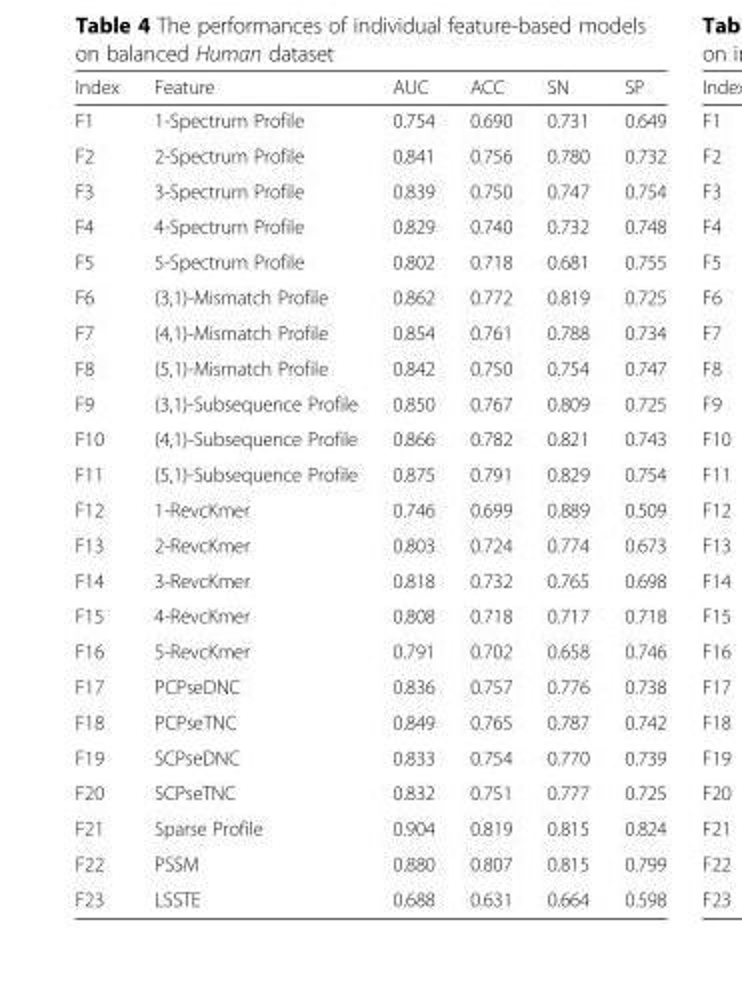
<table><thead><tr><td>Index</td><td>Feature</td><td>AUC</td><td>ACC</td><td>SN</td><td>SP</td></tr></thead><tbody><tr><td>F1</td><td>1-Spectrum Profile</td><td>0.754</td><td>0.690</td><td>0.731</td><td>0.649</td></tr><tr><td>F2</td><td>2-Spectrum Profile</td><td>0.841</td><td>0.756</td><td>0.780</td><td>0.732</td></tr><tr><td>F3</td><td>3-Spectrum Profile</td><td>0.839</td><td>0.750</td><td>0.747</td><td>0.754</td></tr><tr><td>F4</td><td>4-Spectrum Profile</td><td>0.829</td><td>0.740</td><td>0.732</td><td>0.748</td></tr><tr><td>F5</td><td>5-Spectrum Profile</td><td>0.802</td><td>0.718</td><td>0.681</td><td>0.755</td></tr><tr><td>F6</td><td>(3,1)-Mismatch Profile</td><td>0.862</td><td>0.772</td><td>0.819</td><td>0.725</td></tr><tr><td>F7</td><td>(4,1)-Mismatch Profile</td><td>0.854</td><td>0.761</td><td>0.788</td><td>0.734</td></tr><tr><td>F8</td><td>(5,1)-Mismatch Profile</td><td>0.842</td><td>0.750</td><td>0.754</td><td>0.747</td></tr><tr><td>F9</td><td>(3,1)-Subsequence Profile</td><td>0.850</td><td>0.767</td><td>0.809</td><td>0.725</td></tr><tr><td>F10</td><td>(4,1)-Subsequence Profile</td><td>0.866</td><td>0.782</td><td>0.821</td><td>0.743</td></tr><tr><td>F11</td><td>(5,1)-Subsequence Profile</td><td>0.875</td><td>0.791</td><td>0.829</td><td>0.754</td></tr><tr><td>F12</td><td>1-RevcKmer</td><td>0.746</td><td>0.699</td><td>0.889</td><td>0.509</td></tr><tr><td>F13</td><td>2-RevcKmer</td><td>0.803</td><td>0.724</td><td>0.774</td><td>0.673</td></tr><tr><td>F14</td><td>3-RevcKmer</td><td>0.818</td><td>0.732</td><td>0.765</td><td>0.698</td></tr><tr><td>F15</td><td>4-RevcKmer</td><td>0.808</td><td>0.718</td><td>0.717</td><td>0.718</td></tr><tr><td>F16</td><td>5-RevcKmer</td><td>0.791</td><td>0.702</td><td>0.658</td><td>0.746</td></tr><tr><td>F17</td><td>PCPseDNC</td><td>0.836</td><td>0.757</td><td>0.776</td><td>0.738</td></tr><tr><td>F18</td><td>PCPseTNC</td><td>0.849</td><td>0.765</td><td>0.787</td><td>0.742</td></tr><tr><td>F19</td><td>SCPseDNC</td><td>0.833</td><td>0.754</td><td>0.770</td><td>0.739</td></tr><tr><td>F20</td><td>SCPseTNC</td><td>0.832</td><td>0.751</td><td>0.777</td><td>0.725</td></tr><tr><td>F21</td><td>Sparse Profile</td><td>0.904</td><td>0.819</td><td>0.815</td><td>0.824</td></tr><tr><td>F22</td><td>PSSM</td><td>0.880</td><td>0.807</td><td>0.815</td><td>0.799</td></tr><tr><td>F23</td><td>LSSTE</td><td>0.688</td><td>0.631</td><td>0.664</td><td>0.598</td></tr></tbody></table>